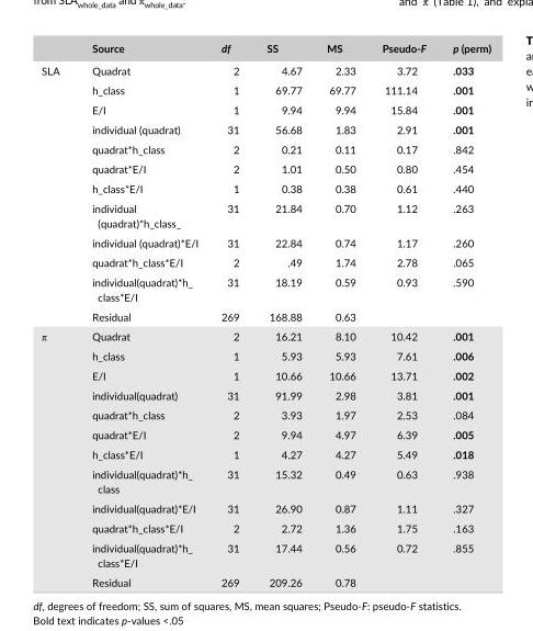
<table><thead><tr><td></td><td>Source</td><td>df</td><td>SS</td><td>MS</td><td>Pseudo- F</td><td>p (perm)</td></tr></thead><tbody><tr><td rowspan="12">SLA</td><td>Quadrat</td><td>2</td><td>4.67</td><td>2.33</td><td>3.72</td><td>.033</td></tr><tr><td>h_class</td><td>1</td><td>69.77</td><td>69.77</td><td>111.14</td><td>.001</td></tr><tr><td>E/I</td><td>1</td><td>9.94</td><td>9.94</td><td>15.84</td><td>.001</td></tr><tr><td>individual (quadrat)</td><td>31</td><td>56.68</td><td>1.83</td><td>2.91</td><td>.001</td></tr><tr><td>quadrat*h_class</td><td>2</td><td>0.21</td><td>0.11</td><td>0.17</td><td>.842</td></tr><tr><td>quadrat*E/I</td><td>2</td><td>1.01</td><td>0.50</td><td>0.80</td><td>.454</td></tr><tr><td>h_class*E/I</td><td>1</td><td>0.38</td><td>0.38</td><td>0.61</td><td>.440</td></tr><tr><td>individual (quadrat)*h_class_</td><td>31</td><td>21.84</td><td>0.70</td><td>1.12</td><td>.263</td></tr><tr><td>individual (quadrat)*E/I</td><td>31</td><td>22.84</td><td>0.74</td><td>1.17</td><td>.260</td></tr><tr><td>quadrat*h_class*E/I</td><td>2</td><td>.49</td><td>1.74</td><td>2.78</td><td>.065</td></tr><tr><td>individual(quadrat)*h_ class*E/I</td><td>31</td><td>18.19</td><td>0.59</td><td>0.93</td><td>.590</td></tr><tr><td>Residual</td><td>269</td><td>168.88</td><td>0.63</td><td></td><td></td></tr><tr><td rowspan="12">π</td><td>Quadrat</td><td>2</td><td>16.21</td><td>8.10</td><td>10.42</td><td>.001</td></tr><tr><td>h_class</td><td>1</td><td>5.93</td><td>5.93</td><td>7.61</td><td>.006</td></tr><tr><td>E/I</td><td>1</td><td>10.66</td><td>10.66</td><td>13.71</td><td>.002</td></tr><tr><td>individual(quadrat)</td><td>31</td><td>91.99</td><td>2.98</td><td>3.81</td><td>.001</td></tr><tr><td>quadrat*h_class</td><td>2</td><td>3.93</td><td>1.97</td><td>2.53</td><td>.084</td></tr><tr><td>quadrat*E/I</td><td>2</td><td>9.94</td><td>4.97</td><td>6.39</td><td>.005</td></tr><tr><td>h_class*E/I</td><td>1</td><td>4.27</td><td>4.27</td><td>5.49</td><td>.018</td></tr><tr><td>individual(quadrat)*h_ class</td><td>31</td><td>15.32</td><td>0.49</td><td>0.63</td><td>.938</td></tr><tr><td>individual(quadrat)*E/I</td><td>31</td><td>26.90</td><td>0.87</td><td>1.11</td><td>.327</td></tr><tr><td>quadrat*h_class*E/I</td><td>2</td><td>2.72</td><td>1.36</td><td>1.75</td><td>.163</td></tr><tr><td>individual(quadrat)*h_ class*E/I</td><td>31</td><td>17.44</td><td>0.56</td><td>0.72</td><td>.855</td></tr><tr><td>Residual</td><td>269</td><td>209.26</td><td>0.78</td><td></td><td></td></tr></tbody></table>